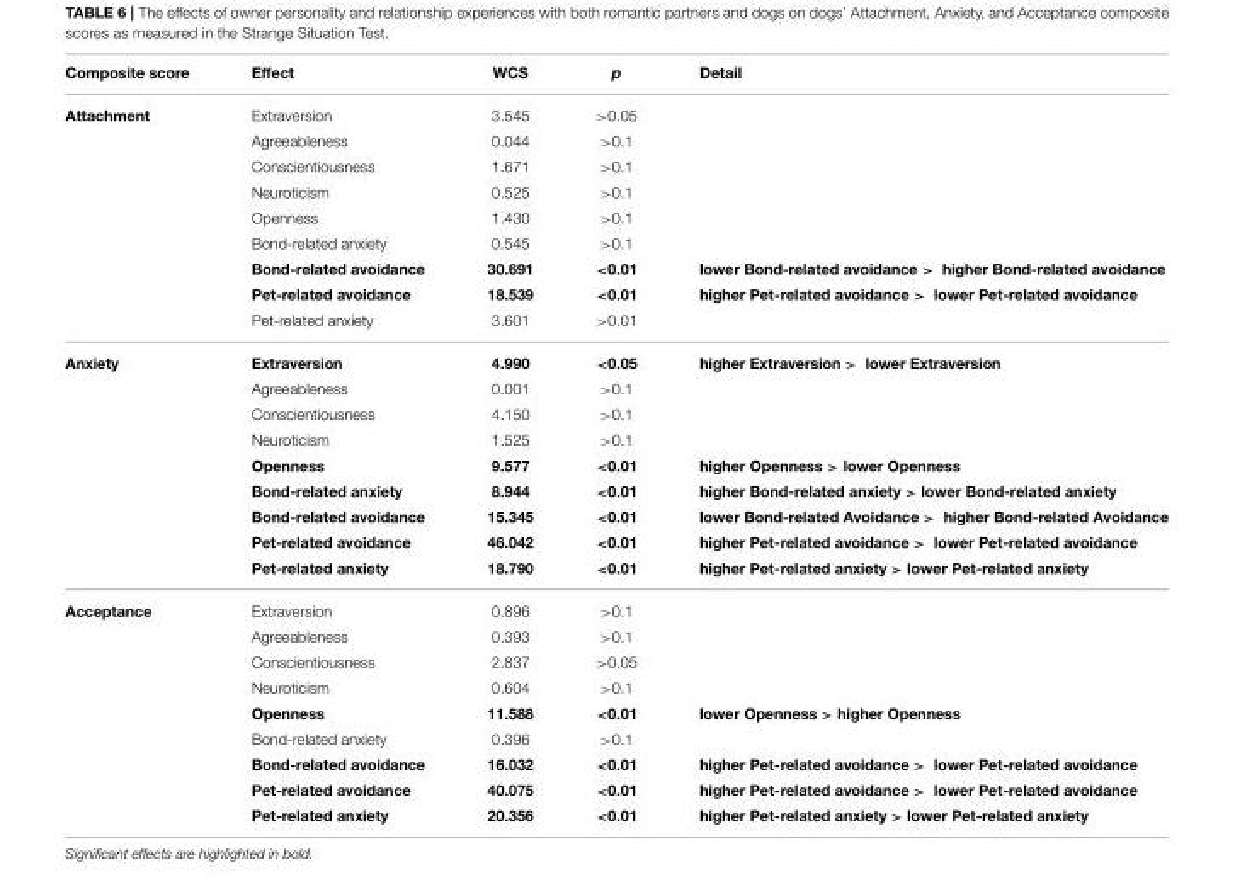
<table><thead><tr><td>Composite score</td><td>Effect</td><td>WCS</td><td>p</td><td>Detail</td></tr></thead><tbody><tr><td rowspan="9">Attachment</td><td>Extraversion</td><td>3.545</td><td>&gt;0.05</td><td></td></tr><tr><td>Agreeableness</td><td>0.044</td><td>&gt;0.1</td><td></td></tr><tr><td>Conscientiousness</td><td>1.671</td><td>&gt;0.1</td><td></td></tr><tr><td>Neuroticism</td><td>0.525</td><td>&gt;0.1</td><td></td></tr><tr><td>Openness</td><td>1.430</td><td>&gt;0.1</td><td></td></tr><tr><td>Bond-related anxiety</td><td>0.545</td><td>&gt;0.1</td><td></td></tr><tr><td>Bond-related avoidance</td><td>30.691</td><td>&lt;0.01</td><td>lower Bond-related avoidance &gt; higher Bond-related avoidance</td></tr><tr><td>Pet-related avoidance</td><td>18.539</td><td>&lt;0.01</td><td>higher Pet-related avoidance &gt; lower Pet-related avoidance</td></tr><tr><td>Pet-related anxiety</td><td>3.601</td><td>&gt;0.01</td><td></td></tr><tr><td rowspan="9">Anxiety</td><td>Extraversion</td><td>4.990</td><td>&lt;0.05</td><td>higher Extraversion &gt; lower Extraversion</td></tr><tr><td>Agreeableness</td><td>0.001</td><td>&gt;0.1</td><td></td></tr><tr><td>Conscientiousness</td><td>4.150</td><td>&gt;0.1</td><td></td></tr><tr><td>Neuroticism</td><td>1.525</td><td>&gt;0.1</td><td></td></tr><tr><td>Openness</td><td>9.577</td><td>&lt;0.01</td><td>higher Openness &gt; lower Openness</td></tr><tr><td>Bond-related anxiety</td><td>8.944</td><td>&lt;0.01</td><td>higher Bond-related anxiety &gt; lower Bond-related anxiety</td></tr><tr><td>Bond-related avoidance</td><td>15.345</td><td>&lt;0.01</td><td>lower Bond-related Avoidance &gt; higher Bond-related Avoidance</td></tr><tr><td>Pet-related avoidance</td><td>46.042</td><td>&lt;0.01</td><td>higher Pet-related avoidance &gt; lower Pet-related avoidance</td></tr><tr><td>Pet-related anxiety</td><td>18.790</td><td>&lt;0.01</td><td>higher Pet-related anxiety &gt; lower Pet-related anxiety</td></tr><tr><td rowspan="9">Acceptance</td><td>Extraversion</td><td>0.896</td><td>&gt;0.1</td><td></td></tr><tr><td>Agreeableness</td><td>0.393</td><td>&gt;0.1</td><td></td></tr><tr><td>Conscientiousness</td><td>2.837</td><td>&gt;0.05</td><td></td></tr><tr><td>Neuroticism</td><td>0.604</td><td>&gt;0.1</td><td></td></tr><tr><td>Openness</td><td>11.588</td><td>&lt;0.01</td><td>lower Openness &gt; higher Openness</td></tr><tr><td>Bond-related anxiety</td><td>0.396</td><td>&gt;0.1</td><td></td></tr><tr><td>Bond-related avoidance</td><td>16.032</td><td>&lt;0.01</td><td>higher Pet-related avoidance &gt; lower Pet-related avoidance</td></tr><tr><td>Pet-related avoidance</td><td>40.075</td><td>&lt;0.01</td><td>higher Pet-related avoidance &gt; lower Pet-related avoidance</td></tr><tr><td>Pet-related anxiety</td><td>20.356</td><td>&lt;0.01</td><td>higher Pet-related anxiety &gt; lower Pet-related anxiety</td></tr></tbody></table>